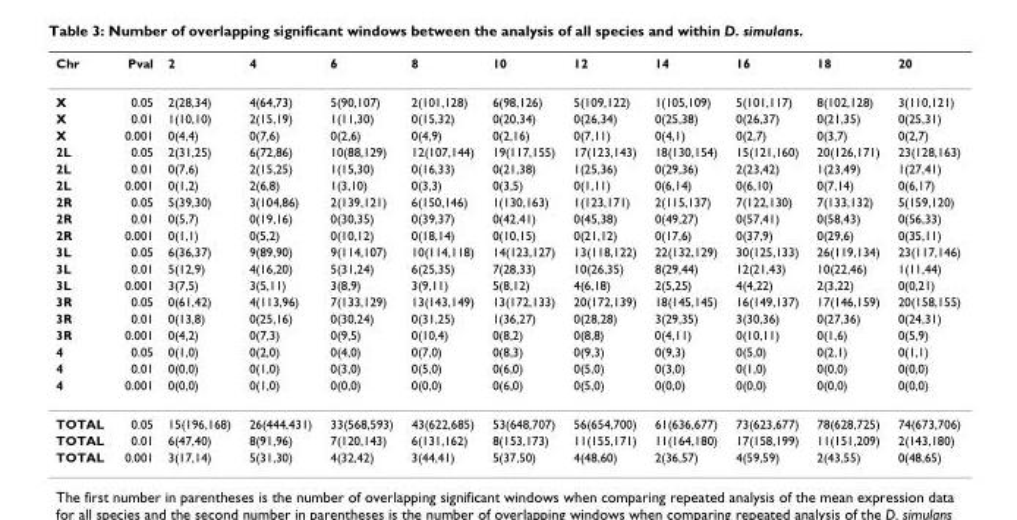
<table><thead><tr><td>Chr</td><td>Pval</td><td>2</td><td>4</td><td>6</td><td>8</td><td>10</td><td>12</td><td>14</td><td>16</td><td>18</td><td>20</td></tr></thead><tbody><tr><td>X</td><td>0.05</td><td>2(28,34)</td><td>4(64,73)</td><td>5(90,107)</td><td>2(101,128)</td><td>6(98,126)</td><td>5(109,122)</td><td>1(105,109)</td><td>5(101,117)</td><td>8(102,128)</td><td>3(110,121)</td></tr><tr><td>X</td><td>0.01</td><td>1(10,10)</td><td>2(15,19)</td><td>1(11,30)</td><td>0(15,32)</td><td>0(20,34)</td><td>0(26,34)</td><td>0(25,38)</td><td>0(26,37)</td><td>0(21,35)</td><td>0(25,31)</td></tr><tr><td>X</td><td>0.001</td><td>0(4,4)</td><td>0(7,6)</td><td>0(2,6)</td><td>0(4,9)</td><td>0(2,16)</td><td>0(7,11)</td><td>0(4,1)</td><td>0(2,7)</td><td>0(3,7)</td><td>0(2,7)</td></tr><tr><td>2L</td><td>0.05</td><td>2(31,25)</td><td>6(72,86)</td><td>10(88,129)</td><td>12(107,144)</td><td>19(117,155)</td><td>17(123,143)</td><td>18(130,154)</td><td>15(121,160)</td><td>20(126,171)</td><td>23(128,163)</td></tr><tr><td>2L</td><td>0.01</td><td>0(7,6)</td><td>2(15,25)</td><td>1(15,30)</td><td>0(16,33)</td><td>0(21,38)</td><td>1(25,36)</td><td>0(29,36)</td><td>2(23,42)</td><td>1(23,49)</td><td>1(27,41)</td></tr><tr><td>2L</td><td>0.001</td><td>0(1,2)</td><td>2(6,8)</td><td>1(3,10)</td><td>0(3,3)</td><td>0(3,5)</td><td>0(1,11)</td><td>0(6,14)</td><td>0(6,10)</td><td>0(7,14)</td><td>0(6,17)</td></tr><tr><td>2R</td><td>0.05</td><td>5(39,30)</td><td>3(104,86)</td><td>2(139,121)</td><td>6(150,146)</td><td>1(130,163)</td><td>1(123,171)</td><td>2(115,137)</td><td>7(122,130)</td><td>7(133,132)</td><td>5(159,120)</td></tr><tr><td>2R</td><td>0.01</td><td>0(5,7)</td><td>0(19,16)</td><td>0(30,35)</td><td>0(39,37)</td><td>0(42,41)</td><td>0(45,38)</td><td>0(49,27)</td><td>0(57,41)</td><td>0(58,43)</td><td>0(56,33)</td></tr><tr><td>2R</td><td>0.001</td><td>0(1,1)</td><td>0(5,2)</td><td>0(10,12)</td><td>0(18,14)</td><td>0(10,15)</td><td>0(21,12)</td><td>0(17,6)</td><td>0(37,9)</td><td>0(29,6)</td><td>0(35,11)</td></tr><tr><td>3L</td><td>0.05</td><td>6(36,37)</td><td>9(89,90)</td><td>9(114,107)</td><td>10(114,118)</td><td>14(123,127)</td><td>13(118,122)</td><td>22(132,129)</td><td>30(125,133)</td><td>26(119,134)</td><td>23(117,146)</td></tr><tr><td>3L</td><td>0.01</td><td>5(12,9)</td><td>4(16,20)</td><td>5(31,24)</td><td>6(25,35)</td><td>7(28,33)</td><td>10(26,35)</td><td>8(29,44)</td><td>12(21,43)</td><td>10(22,46)</td><td>1(11,44)</td></tr><tr><td>3L</td><td>0.001</td><td>3(7,5)</td><td>3(5,11)</td><td>3(8,9)</td><td>3(9,11)</td><td>5(8,12)</td><td>4(6,18)</td><td>2(5,25)</td><td>4(4,22)</td><td>2(3,22)</td><td>0(0,21)</td></tr><tr><td>3R</td><td>0.05</td><td>0(61,42)</td><td>4(113,96)</td><td>7(133,129)</td><td>13(143,149)</td><td>13(172,133)</td><td>20(172,139)</td><td>18(145,145)</td><td>16(149,137)</td><td>17(146,159)</td><td>20(158,155)</td></tr><tr><td>3R</td><td>0.01</td><td>0(13,8)</td><td>0(25,16)</td><td>0(30,24)</td><td>0(31,25)</td><td>1(36,27)</td><td>0(28,28)</td><td>3(29,35)</td><td>3(30,36)</td><td>0(27,36)</td><td>0(24,31)</td></tr><tr><td>3R</td><td>0.001</td><td>0(4,2)</td><td>0(7,3)</td><td>0(9,5)</td><td>0(10,4)</td><td>0(8,2)</td><td>0(8,8)</td><td>0(4,11)</td><td>0(10,11)</td><td>0(1,6)</td><td>0(5,9)</td></tr><tr><td>4</td><td>0.05</td><td>0(1,0)</td><td>0(2,0)</td><td>0(4,0)</td><td>0(7,0)</td><td>0(8,3)</td><td>0(9,3)</td><td>0(9,3)</td><td>0(5,0)</td><td>0(2,1)</td><td>0(1,1)</td></tr><tr><td>4</td><td>0.01</td><td>0(0,0)</td><td>0(1,0)</td><td>0(3,0)</td><td>0(5,0)</td><td>0(6,0)</td><td>0(5,0)</td><td>0(3,0)</td><td>0(1,0)</td><td>0(0,0)</td><td>0(0,0)</td></tr><tr><td>4</td><td>0.001</td><td>0(0,0)</td><td>0(1,0)</td><td>0(0,0)</td><td>0(0,0)</td><td>0(6,0)</td><td>0(5,0)</td><td>0(0,0)</td><td>0(0,0)</td><td>0(0,0)</td><td>0(0,0)</td></tr><tr><td>TOTAL</td><td>0.05</td><td>15(196,168)</td><td>26(444,431)</td><td>33(568,593)</td><td>43(622,685)</td><td>53(648,707)</td><td>56(654,700)</td><td>61(636,677)</td><td>73(623,677)</td><td>78(628,725)</td><td>74(673,706)</td></tr><tr><td>TOTAL</td><td>0.01</td><td>6(47,40)</td><td>8(91,96)</td><td>7(120,143)</td><td>6(131,162)</td><td>8(153,173)</td><td>11(155,171)</td><td>11(164,180)</td><td>17(158,199)</td><td>11(151,209)</td><td>2(143,180)</td></tr><tr><td>TOTAL</td><td>0.001</td><td>3(17,14)</td><td>5(31,30)</td><td>4(32,42)</td><td>3(44,41)</td><td>5(37,50)</td><td>4(48,60)</td><td>2(36,57)</td><td>4(59,59)</td><td>2(43,55)</td><td>0(48,65)</td></tr></tbody></table>